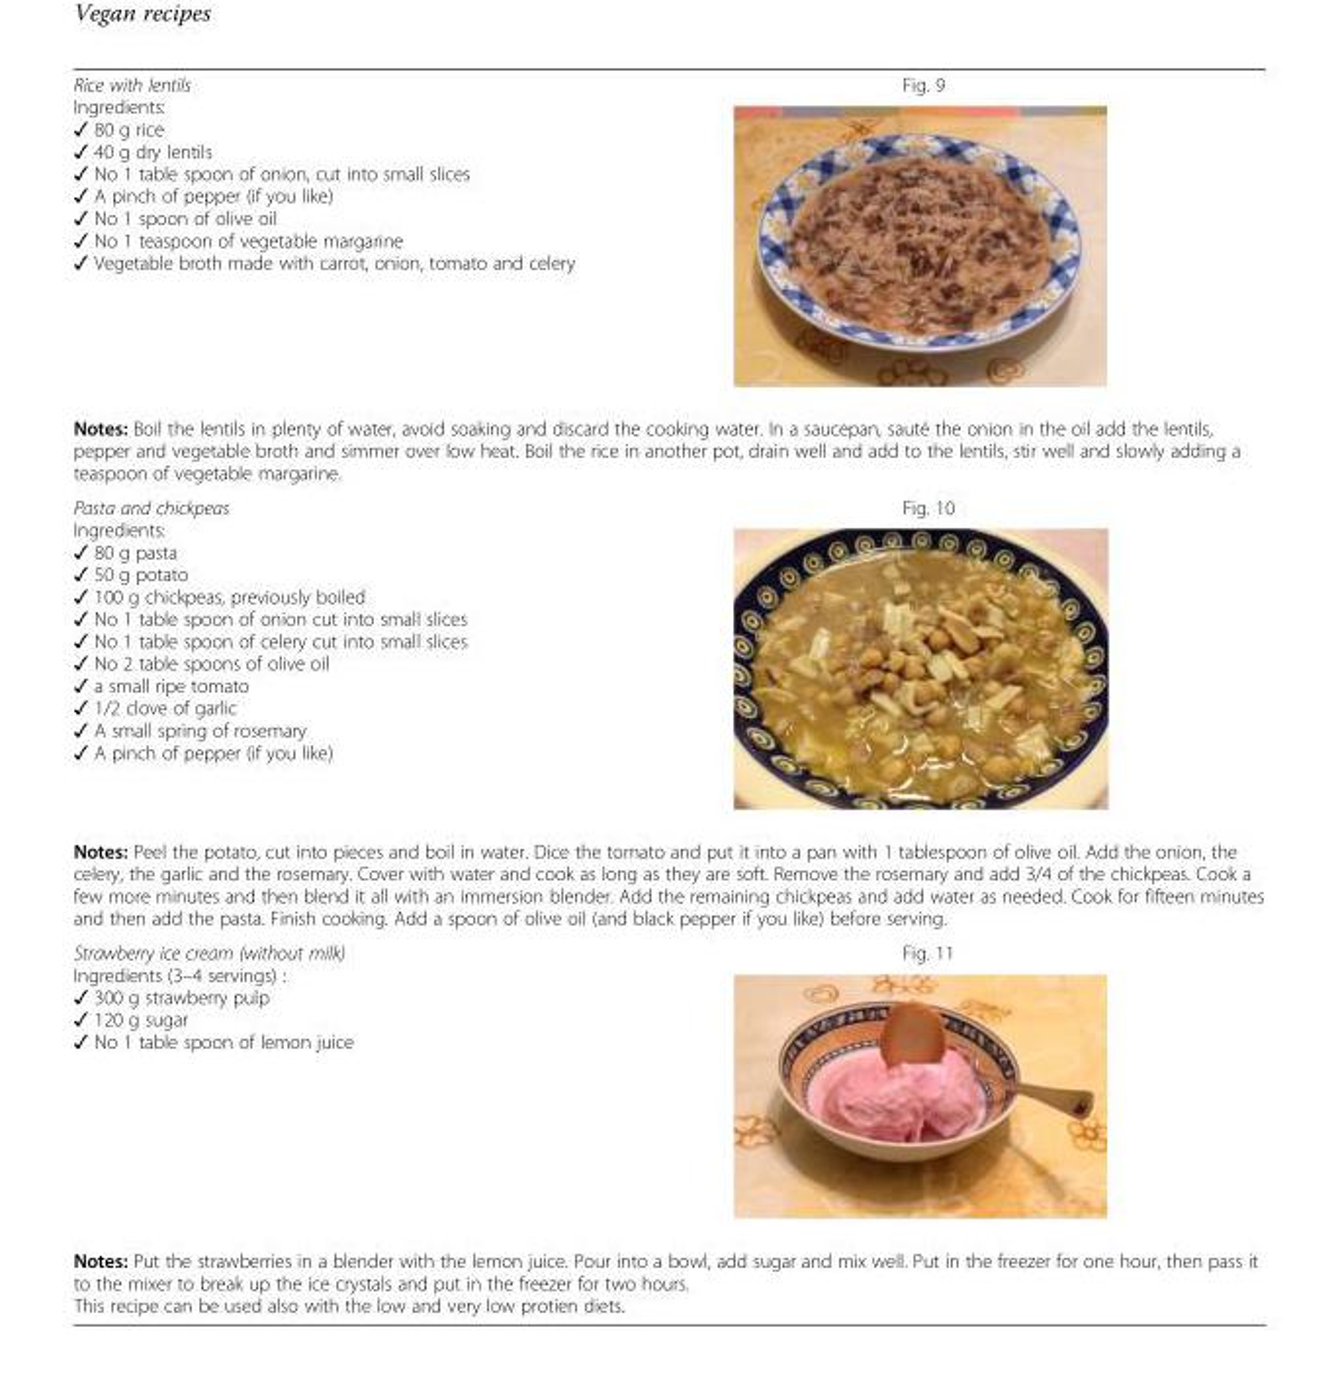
<table><tbody><tr><td>Rice with lentils Ingredients: ✓ 80 g rice ✓ 40 g dry lentils ✓ No 1 table spoon of onion, cut into small slices ✓ A pinch of pepper (if you like) ✓ No 1 spoon of olive oil ✓ No 1 teaspoon of vegetable margarine ✓ Vegetable broth made with carrot, onion, tomato and celery</td><td>Fig. 9</td></tr><tr><td colspan="2">Notes: Boil the lentils in plenty of water, avoid soaking and discard the cooking water. In a saucepan, sauté the onion in the oil add the lentils, pepper and vegetable broth and simmer over low heat. Boil the rice in another pot, drain well and add to the lentils, stir well and slowly adding a teaspoon of vegetable margarine.</td></tr><tr><td>Pasta and chickpeas Ingredients: ✓ 80 g pasta ✓ 50 g potato ✓ 100 g chickpeas, previously boiled ✓ No 1 table spoon of onion cut into small slices ✓ No 1 table spoon of celery cut into small slices ✓ No 2 table spoons of olive oil ✓ a small ripe tomato ✓ 1/2 clove of garlic ✓ A small spring of rosemary ✓ A pinch of pepper (if you like)</td><td>Fig. 10</td></tr><tr><td colspan="2">Notes: Peel the potato, cut into pieces and boil in water. Dice the tomato and put it into a pan with 1 tablespoon of olive oil. Add the onion, the celery, the garlic and the rosemary. Cover with water and cook as long as they are soft. Remove the rosemary and add 3/4 of the chickpeas. Cook a few more minutes and then blend it all with an immersion blender. Add the remaining chickpeas and add water as needed. Cook for fifteen minutes and then add the pasta. Finish cooking. Add a spoon of olive oil (and black pepper if you like) before serving.</td></tr><tr><td>Strawberry ice cream (without milk) Ingredients (3–4 servings) : ✓ 300 g strawberry pulp ✓ 120 g sugar ✓ No 1 table spoon of lemon juice</td><td>Fig. 11</td></tr><tr><td colspan="2">Notes: Put the strawberries in a blender with the lemon juice. Pour into a bowl, add sugar and mix well. Put in the freezer for one hour, then pass it to the mixer to break up the ice crystals and put in the freezer for two hours. This recipe can be used also with the low and very low protien diets.</td></tr></tbody></table>